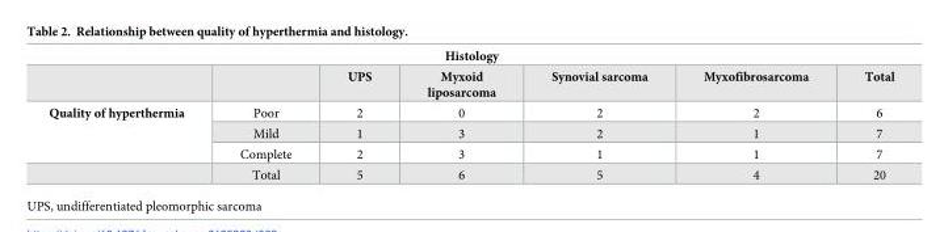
<table><thead><tr><td colspan="7">Histology</td></tr><tr><td></td><td></td><td>UPS</td><td>Myxoid liposarcoma</td><td>Synovial sarcoma</td><td>Myxofibrosarcoma</td><td>Total</td></tr></thead><tbody><tr><td rowspan="4">Quality of hyperthermia</td><td>Poor</td><td>2</td><td>0</td><td>2</td><td>2</td><td>6</td></tr><tr><td>Mild</td><td>1</td><td>3</td><td>2</td><td>1</td><td>7</td></tr><tr><td>Complete</td><td>2</td><td>3</td><td>1</td><td>1</td><td>7</td></tr><tr><td>Total</td><td>5</td><td>6</td><td>5</td><td>4</td><td>20</td></tr></tbody></table>